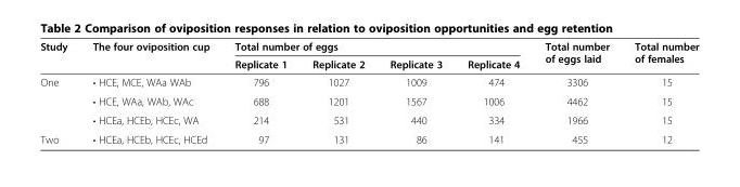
<table><thead><tr><td rowspan="2">Study</td><td rowspan="2">The four oviposition cup</td><td colspan="4">Total number of eggs</td><td rowspan="2">Total number of eggs laid</td><td rowspan="2">Total number of females</td></tr><tr><td>Replicate 1</td><td>Replicate 2</td><td>Replicate 3</td><td>Replicate 4</td></tr></thead><tbody><tr><td rowspan="3">One</td><td>• HCE, MCE, WAa WAb</td><td>796</td><td>1027</td><td>1009</td><td>474</td><td>3306</td><td>15</td></tr><tr><td>• HCE, WAa, WAb, WAc</td><td>688</td><td>1201</td><td>1567</td><td>1006</td><td>4462</td><td>15</td></tr><tr><td>• HCEa, HCEb, HCEc, WA</td><td>214</td><td>531</td><td>440</td><td>334</td><td>1966</td><td>15</td></tr><tr><td>Two</td><td>• HCEa, HCEb, HCEc, HCEd</td><td>97</td><td>131</td><td>86</td><td>141</td><td>455</td><td>12</td></tr></tbody></table>